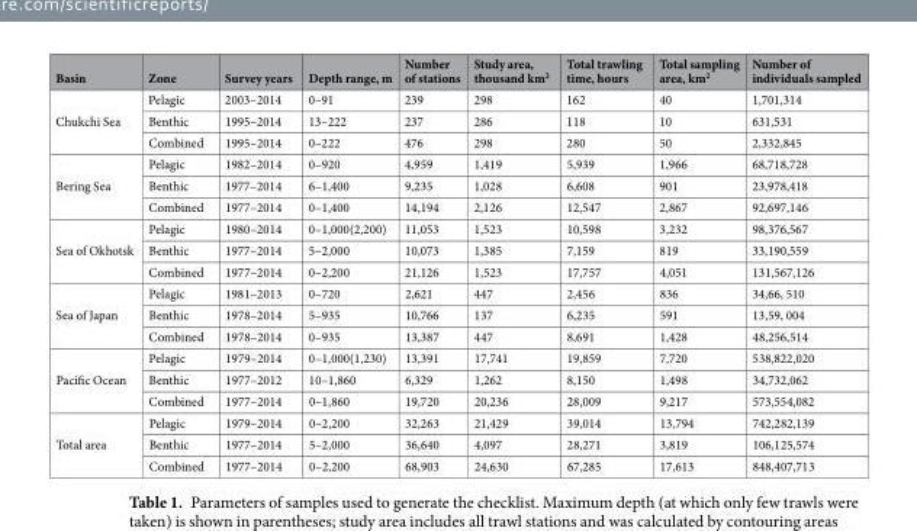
<table><thead><tr><td>Basin</td><td>Zone</td><td>Survey years</td><td>Depth range, m</td><td>Number of stations</td><td>Study area, thousand km<sup>2</sup></td><td>Total trawling time, hours</td><td>Total sampling area, km<sup>2</sup></td><td>Number of individuals sampled</td></tr></thead><tbody><tr><td rowspan="3">Chukchi Sea</td><td>Pelagic</td><td>2003–2014</td><td>0–91</td><td>239</td><td>298</td><td>162</td><td>40</td><td>1,701,314</td></tr><tr><td>Benthic</td><td>1995–2014</td><td>13–222</td><td>237</td><td>286</td><td>118</td><td>10</td><td>631,531</td></tr><tr><td>Combined</td><td>1995–2014</td><td>0–222</td><td>476</td><td>298</td><td>280</td><td>50</td><td>2,332,845</td></tr><tr><td rowspan="3">Bering Sea</td><td>Pelagic</td><td>1982–2014</td><td>0–920</td><td>4,959</td><td>1,419</td><td>5,939</td><td>1,966</td><td>68,718,728</td></tr><tr><td>Benthic</td><td>1977–2014</td><td>6–1,400</td><td>9,235</td><td>1,028</td><td>6,608</td><td>901</td><td>23,978,418</td></tr><tr><td>Combined</td><td>1977–2014</td><td>0–1,400</td><td>14,194</td><td>2,126</td><td>12,547</td><td>2,867</td><td>92,697,146</td></tr><tr><td rowspan="3">Sea of Okhotsk</td><td>Pelagic</td><td>1980–2014</td><td>0–1,000(2,200)</td><td>11,053</td><td>1,523</td><td>10,598</td><td>3,232</td><td>98,376,567</td></tr><tr><td>Benthic</td><td>1977–2014</td><td>5–2,000</td><td>10,073</td><td>1,385</td><td>7,159</td><td>819</td><td>33,190,559</td></tr><tr><td>Combined</td><td>1977–2014</td><td>0–2,200</td><td>21,126</td><td>1,523</td><td>17,757</td><td>4,051</td><td>131,567,126</td></tr><tr><td rowspan="3">Sea of Japan</td><td>Pelagic</td><td>1981–2013</td><td>0–720</td><td>2,621</td><td>447</td><td>2,456</td><td>836</td><td>34,66, 510</td></tr><tr><td>Benthic</td><td>1978–2014</td><td>5–935</td><td>10,766</td><td>137</td><td>6,235</td><td>591</td><td>13,59, 004</td></tr><tr><td>Combined</td><td>1978–2014</td><td>0–935</td><td>13,387</td><td>447</td><td>8,691</td><td>1,428</td><td>48,256,514</td></tr><tr><td rowspan="3">Pacific Ocean</td><td>Pelagic</td><td>1979–2014</td><td>0–1,000(1,230)</td><td>13,391</td><td>17,741</td><td>19,859</td><td>7,720</td><td>538,822,020</td></tr><tr><td>Benthic</td><td>1977–2012</td><td>10–1,860</td><td>6,329</td><td>1,262</td><td>8,150</td><td>1,498</td><td>34,732,062</td></tr><tr><td>Combined</td><td>1977–2014</td><td>0–1,860</td><td>19,720</td><td>20,236</td><td>28,009</td><td>9,217</td><td>573,554,082</td></tr><tr><td rowspan="3">Total area</td><td>Pelagic</td><td>1979–2014</td><td>0–2,200</td><td>32,263</td><td>21,429</td><td>39,014</td><td>13,794</td><td>742,282,139</td></tr><tr><td>Benthic</td><td>1977–2014</td><td>5–2,000</td><td>36,640</td><td>4,097</td><td>28,271</td><td>3,819</td><td>106,125,574</td></tr><tr><td>Combined</td><td>1977–2014</td><td>0–2,200</td><td>68,903</td><td>24,630</td><td>67,285</td><td>17,613</td><td>848,407,713</td></tr></tbody></table>